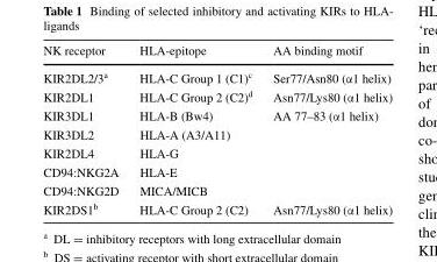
<table><thead><tr><td>NK receptor</td><td>HLA-epitope</td><td>AA binding motif</td></tr></thead><tbody><tr><td>KIR2DL2/3<sup>a</sup></td><td>HLA-C Group 1 (C1)<sup>c</sup></td><td>Ser77/Asn80 (α1 helix)</td></tr><tr><td>KIR2DL1</td><td>HLA-C Group 2 (C2)<sup>d</sup></td><td>Asn77/Lys80 (α1 helix)</td></tr><tr><td>KIR3DL1</td><td>HLA-B (Bw4)</td><td>AA 77–83 (α1 helix)</td></tr><tr><td>KIR3DL2</td><td>HLA-A (A3/A11)</td><td></td></tr><tr><td>KIR2DL4</td><td>HLA-G</td><td></td></tr><tr><td>CD94:NKG2A</td><td>HLA-E</td><td></td></tr><tr><td>CD94:NKG2D</td><td>MICA/MICB</td><td></td></tr><tr><td>KIR2DS1<sup>b</sup></td><td>HLA-C Group 2 (C2)</td><td>Asn77/Lys80 (α1 helix)</td></tr></tbody></table>